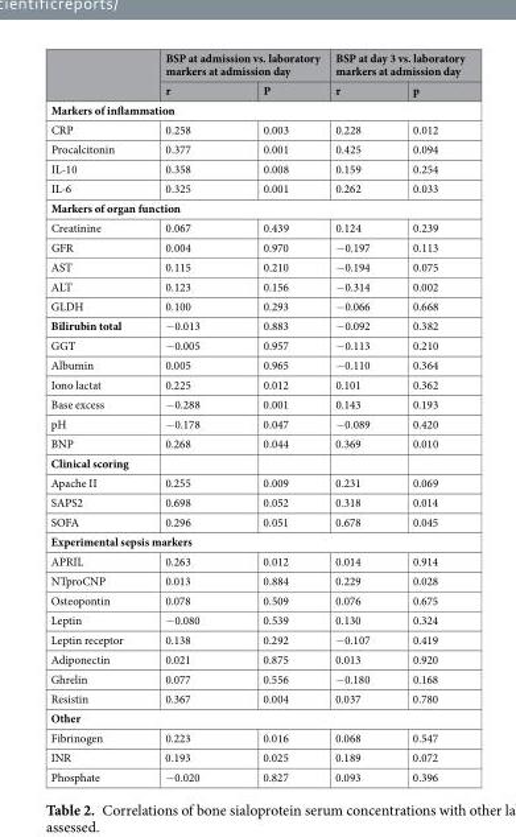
<table><thead><tr><td rowspan="2"></td><td colspan="2">BSP at admission vs. laboratory markers at admission day</td><td colspan="2">BSP at day 3 vs. laboratory markers at admission day</td></tr><tr><td>r</td><td>P</td><td>r</td><td>p</td></tr></thead><tbody><tr><td colspan="5">Markers of inflammation</td></tr><tr><td>CRP</td><td>0.258</td><td>0.003</td><td>0.228</td><td>0.012</td></tr><tr><td>Procalcitonin</td><td>0.377</td><td>0.001</td><td>0.425</td><td>0.094</td></tr><tr><td>IL-10</td><td>0.358</td><td>0.008</td><td>0.159</td><td>0.254</td></tr><tr><td>IL-6</td><td>0.325</td><td>0.001</td><td>0.262</td><td>0.033</td></tr><tr><td colspan="5">Markers of organ function</td></tr><tr><td>Creatinine</td><td>0.067</td><td>0.439</td><td>0.124</td><td>0.239</td></tr><tr><td>GFR</td><td>0.004</td><td>0.970</td><td>−0.197</td><td>0.113</td></tr><tr><td>AST</td><td>0.115</td><td>0.210</td><td>−0.194</td><td>0.075</td></tr><tr><td>ALT</td><td>0.123</td><td>0.156</td><td>−0.314</td><td>0.002</td></tr><tr><td>GLDH</td><td>0.100</td><td>0.293</td><td>−0.066</td><td>0.668</td></tr><tr><td>Bilirubin total</td><td>−0.013</td><td>0.883</td><td>−0.092</td><td>0.382</td></tr><tr><td>GGT</td><td>−0.005</td><td>0.957</td><td>−0.113</td><td>0.210</td></tr><tr><td>Albumin</td><td>0.005</td><td>0.965</td><td>−0.110</td><td>0.364</td></tr><tr><td>Iono lactat</td><td>0.225</td><td>0.012</td><td>0.101</td><td>0.362</td></tr><tr><td>Base excess</td><td>−0.288</td><td>0.001</td><td>0.143</td><td>0.193</td></tr><tr><td>pH</td><td>−0.178</td><td>0.047</td><td>−0.089</td><td>0.420</td></tr><tr><td>BNP</td><td>0.268</td><td>0.044</td><td>0.369</td><td>0.010</td></tr><tr><td colspan="5">Clinical scoring</td></tr><tr><td>Apache II</td><td>0.255</td><td>0.009</td><td>0.231</td><td>0.069</td></tr><tr><td>SAPS2</td><td>0.698</td><td>0.052</td><td>0.318</td><td>0.014</td></tr><tr><td>SOFA</td><td>0.296</td><td>0.051</td><td>0.678</td><td>0.045</td></tr><tr><td colspan="5">Experimental sepsis markers</td></tr><tr><td>APRIL</td><td>0.263</td><td>0.012</td><td>0.014</td><td>0.914</td></tr><tr><td>NTproCNP</td><td>0.013</td><td>0.884</td><td>0.229</td><td>0.028</td></tr><tr><td>Osteopontin</td><td>0.078</td><td>0.509</td><td>0.076</td><td>0.675</td></tr><tr><td>Leptin</td><td>−0.080</td><td>0.539</td><td>0.130</td><td>0.324</td></tr><tr><td>Leptin receptor</td><td>0.138</td><td>0.292</td><td>−0.107</td><td>0.419</td></tr><tr><td>Adiponectin</td><td>0.021</td><td>0.875</td><td>0.013</td><td>0.920</td></tr><tr><td>Ghrelin</td><td>0.077</td><td>0.556</td><td>−0.180</td><td>0.168</td></tr><tr><td>Resistin</td><td>0.367</td><td>0.004</td><td>0.037</td><td>0.780</td></tr><tr><td colspan="5">Other</td></tr><tr><td>Fibrinogen</td><td>0.223</td><td>0.016</td><td>0.068</td><td>0.547</td></tr><tr><td>INR</td><td>0.193</td><td>0.025</td><td>0.189</td><td>0.072</td></tr><tr><td>Phosphate</td><td>−0.020</td><td>0.827</td><td>0.093</td><td>0.396</td></tr></tbody></table>